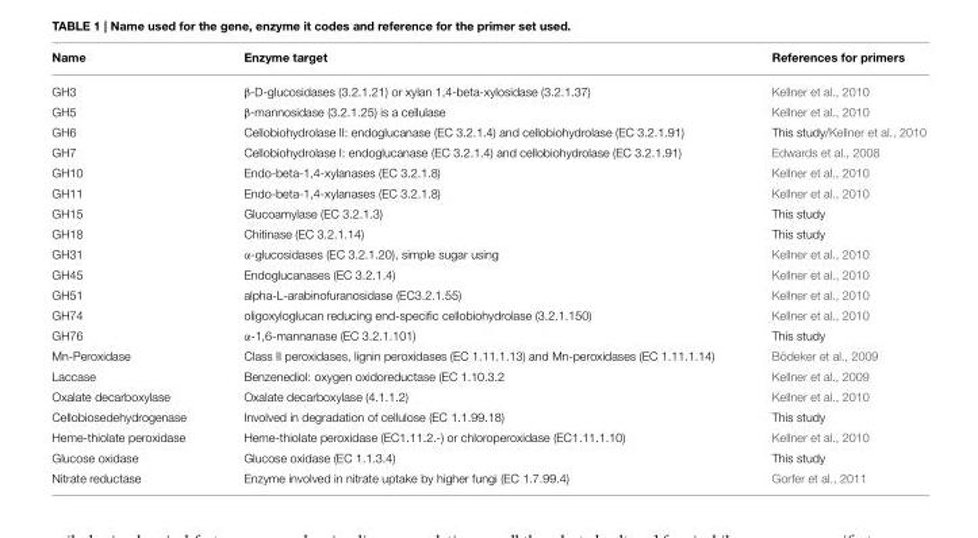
<table><thead><tr><td>Name</td><td>Enzyme target</td><td>References for primers</td></tr></thead><tbody><tr><td>GH3</td><td>β-D-glucosidases (3.2.1.21) or xylan 1,4-beta-xylosidase (3.2.1.37)</td><td>Kellner et al., 2010</td></tr><tr><td>GH5</td><td>β-mannosidase (3.2.1.25) is a cellulase</td><td>Kellner et al., 2010</td></tr><tr><td>GH6</td><td>Cellobiohydrolase II: endoglucanase (EC 3.2.1.4) and cellobiohydrolase (EC 3.2.1.91)</td><td>This study/Kellner et al., 2010</td></tr><tr><td>GH7</td><td>Cellobiohydrolase I: endoglucanase (EC 3.2.1.4) and cellobiohydrolase (EC 3.2.1.91)</td><td>Edwards et al., 2008</td></tr><tr><td>GH10</td><td>Endo-beta-1,4-xylanases (EC 3.2.1.8)</td><td>Kellner et al., 2010</td></tr><tr><td>GH11</td><td>Endo-beta-1,4-xylanases (EC 3.2.1.8)</td><td>Kellner et al., 2010</td></tr><tr><td>GH15</td><td>Glucoamylase (EC 3.2.1.3)</td><td>This study</td></tr><tr><td>GH18</td><td>Chitinase (EC 3.2.1.14)</td><td>This study</td></tr><tr><td>GH31</td><td>α-glucosidases (EC 3.2.1.20), simple sugar using</td><td>Kellner et al., 2010</td></tr><tr><td>GH45</td><td>Endoglucanases (EC 3.2.1.4)</td><td>Kellner et al., 2010</td></tr><tr><td>GH51</td><td>alpha-L-arabinofuranosidase (EC3.2.1.55)</td><td>Kellner et al., 2010</td></tr><tr><td>GH74</td><td>oligoxyloglucan reducing end-specific cellobiohydrolase (3.2.1.150)</td><td>Kellner et al., 2010</td></tr><tr><td>GH76</td><td>α-1,6-mannanase (EC 3.2.1.101)</td><td>This study</td></tr><tr><td>Mn-Peroxidase</td><td>Class II peroxidases, lignin peroxidases (EC 1.11.1.13) and Mn-peroxidases (EC 1.11.1.14)</td><td>Bödeker et al., 2009</td></tr><tr><td>Laccase</td><td>Benzenediol: oxygen oxidoreductase (EC 1.10.3.2</td><td>Kellner et al., 2009</td></tr><tr><td>Oxalate decarboxylase</td><td>Oxalate decarboxylase (4.1.1.2)</td><td>Kellner et al., 2010</td></tr><tr><td>Cellobiosedehydrogenase</td><td>Involved in degradation of cellulose (EC 1.1.99.18)</td><td>This study</td></tr><tr><td>Heme-thiolate peroxidase</td><td>Heme-thiolate peroxidase (EC1.11.2.-) or chloroperoxidase (EC1.11.1.10)</td><td>Kellner et al., 2010</td></tr><tr><td>Glucose oxidase</td><td>Glucose oxidase (EC 1.1.3.4)</td><td>This study</td></tr><tr><td>Nitrate reductase</td><td>Enzyme involved in nitrate uptake by higher fungi (EC 1.7.99.4)</td><td>Gorfer et al., 2011</td></tr></tbody></table>